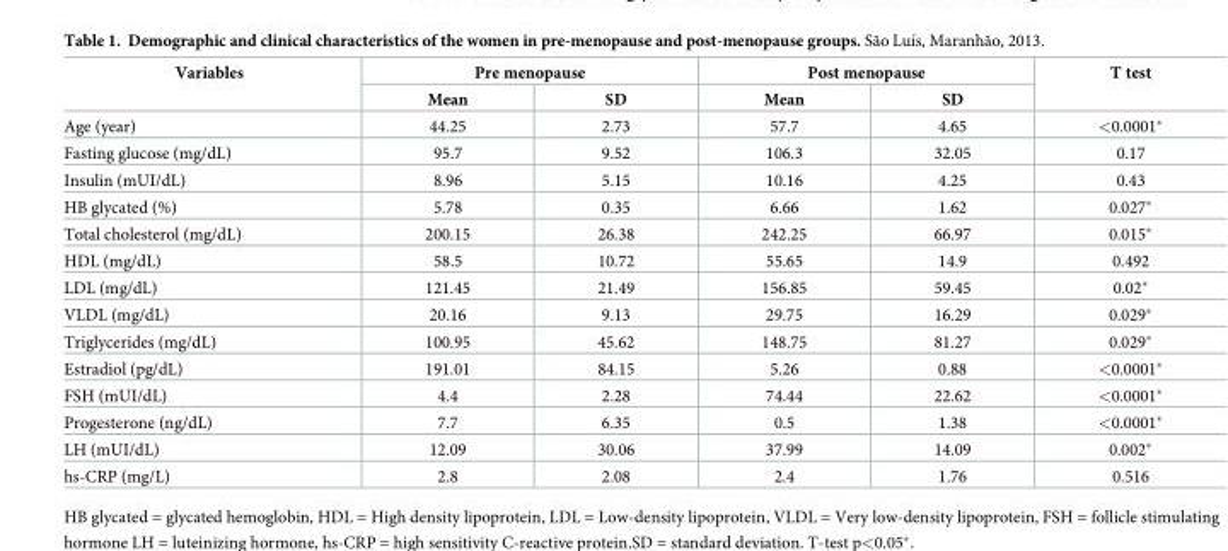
<table><thead><tr><td rowspan="2">Variables</td><td colspan="2">Pre menopause</td><td colspan="2">Post menopause</td><td rowspan="2">T test</td></tr><tr><td>Mean</td><td>SD</td><td>Mean</td><td>SD</td></tr></thead><tbody><tr><td>Age (year)</td><td>44.25</td><td>2.73</td><td>57.7</td><td>4.65</td><td>&lt;0.0001*</td></tr><tr><td>Fasting glucose (mg/dL)</td><td>95.7</td><td>9.52</td><td>106.3</td><td>32.05</td><td>0.17</td></tr><tr><td>Insulin (mUI/dL)</td><td>8.96</td><td>5.15</td><td>10.16</td><td>4.25</td><td>0.43</td></tr><tr><td>HB glycated (%)</td><td>5.78</td><td>0.35</td><td>6.66</td><td>1.62</td><td>0.027*</td></tr><tr><td>Total cholesterol (mg/dL)</td><td>200.15</td><td>26.38</td><td>242.25</td><td>66.97</td><td>0.015*</td></tr><tr><td>HDL (mg/dL)</td><td>58.5</td><td>10.72</td><td>55.65</td><td>14.9</td><td>0.492</td></tr><tr><td>LDL (mg/dL)</td><td>121.45</td><td>21.49</td><td>156.85</td><td>59.45</td><td>0.02*</td></tr><tr><td>VLDL (mg/dL)</td><td>20.16</td><td>9.13</td><td>29.75</td><td>16.29</td><td>0.029*</td></tr><tr><td>Triglycerides (mg/dL)</td><td>100.95</td><td>45.62</td><td>148.75</td><td>81.27</td><td>0.029*</td></tr><tr><td>Estradiol (pg/dL)</td><td>191.01</td><td>84.15</td><td>5.26</td><td>0.88</td><td>&lt;0.0001*</td></tr><tr><td>FSH (mUI/dL)</td><td>4.4</td><td>2.28</td><td>74.44</td><td>22.62</td><td>&lt;0.0001*</td></tr><tr><td>Progesterone (ng/dL)</td><td>7.7</td><td>6.35</td><td>0.5</td><td>1.38</td><td>&lt;0.0001*</td></tr><tr><td>LH (mUI/dL)</td><td>12.09</td><td>30.06</td><td>37.99</td><td>14.09</td><td>0.002*</td></tr><tr><td>hs-CRP (mg/L)</td><td>2.8</td><td>2.08</td><td>2.4</td><td>1.76</td><td>0.516</td></tr></tbody></table>